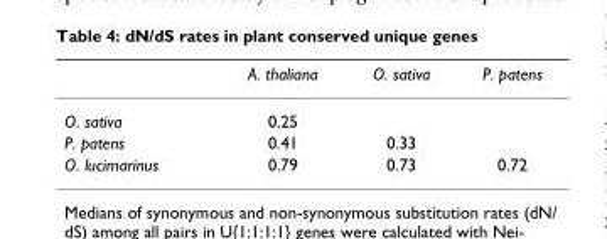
<table><thead><tr><td></td><td>A. thaliana</td><td>O. sativa</td><td>P. patens</td></tr></thead><tbody><tr><td>O. sativa</td><td>0.25</td><td></td><td></td></tr><tr><td>P. patens</td><td>0.41</td><td>0.33</td><td></td></tr><tr><td>O. lucimarinus</td><td>0.79</td><td>0.73</td><td>0.72</td></tr></tbody></table>